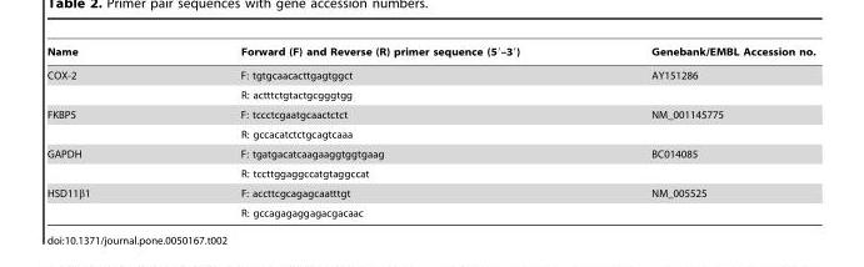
<table><thead><tr><td>Name</td><td>Forward (F) and Reverse (R) primer sequence (5′–3′)</td><td>Genebank/EMBL Accession no.</td></tr></thead><tbody><tr><td rowspan="2">COX-2</td><td>F: tgtgcaacacttgagtggct</td><td>AY151286</td></tr><tr><td>R: actttctgtactgcgggtgg</td><td></td></tr><tr><td rowspan="2">FKBP5</td><td>F: tccctcgaatgcaactctct</td><td>NM_001145775</td></tr><tr><td>R: gccacatctctgcagtcaaa</td><td></td></tr><tr><td rowspan="2">GAPDH</td><td>F: tgatgacatcaagaaggtggtgaag</td><td>BC014085</td></tr><tr><td>R: tccttggaggccatgtaggccat</td><td></td></tr><tr><td rowspan="2">HSD11β1</td><td>F: accttcgcagagcaatttgt</td><td>NM_005525</td></tr><tr><td>R: gccagagaggagacgacaac</td><td></td></tr></tbody></table>